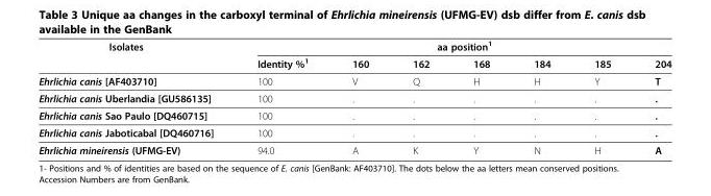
<table><thead><tr><td rowspan="2">Isolates</td><td colspan="7">aa position<sup>1</sup></td></tr><tr><td>Identity %<sup>1</sup></td><td>160</td><td>162</td><td>168</td><td>184</td><td>185</td><td>204</td></tr></thead><tbody><tr><td>Ehrlichia canis [AF403710]</td><td>100</td><td>V</td><td>Q</td><td>H</td><td>H</td><td>Y</td><td>T</td></tr><tr><td>Ehrlichia canis Uberlandia [GU586135]</td><td>100</td><td>.</td><td>.</td><td>.</td><td>.</td><td>.</td><td>.</td></tr><tr><td>Ehrlichia canis Sao Paulo [DQ460715]</td><td>100</td><td>.</td><td>.</td><td>.</td><td>.</td><td>.</td><td>.</td></tr><tr><td>Ehrlichia canis Jaboticabal [DQ460716]</td><td>100</td><td>.</td><td>.</td><td>.</td><td>.</td><td>.</td><td>.</td></tr><tr><td>Ehrlichia mineirensis (UFMG-EV)</td><td>94.0</td><td>A</td><td>K</td><td>Y</td><td>N</td><td>H</td><td>A</td></tr></tbody></table>